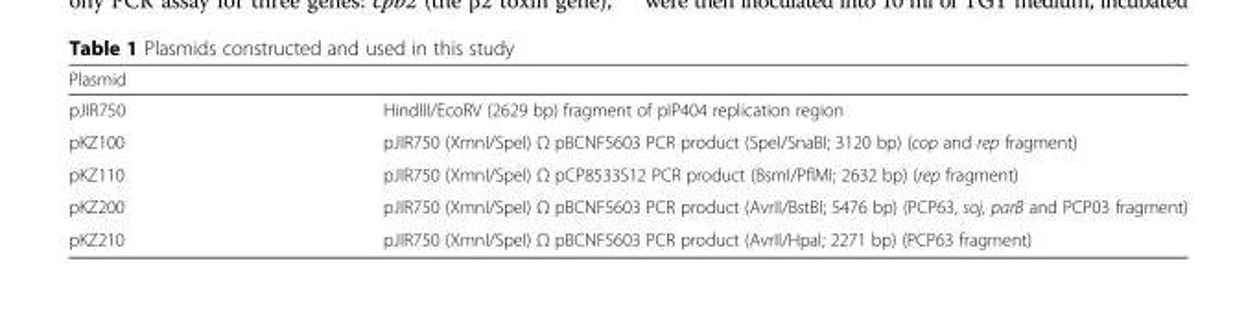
<table><thead><tr><td>Plasmid</td><td></td></tr></thead><tbody><tr><td>pJIR750</td><td>HindIII/EcoRV (2629 bp) fragment of pIP404 replication region</td></tr><tr><td>pKZ100</td><td>pJIR750 (XmnI/SpeI) Ω pBCNF5603 PCR product (SpeI/SnaBI; 3120 bp) (cop and rep fragment)</td></tr><tr><td>pKZ110</td><td>pJIR750 (XmnI/SpeI) Ω pCP8533S12 PCR product (BsmI/PflMI; 2632 bp) (rep fragment)</td></tr><tr><td>pKZ200</td><td>pJIR750 (XmnI/SpeI) Ω pBCNF5603 PCR product (AvrII/BstBI; 5476 bp) (PCP63, soj, parB and PCP03 fragment)</td></tr><tr><td>pKZ210</td><td>pJIR750 (XmnI/SpeI) Ω pBCNF5603 PCR product (AvrII/HpaI; 2271 bp) (PCP63 fragment)</td></tr></tbody></table>